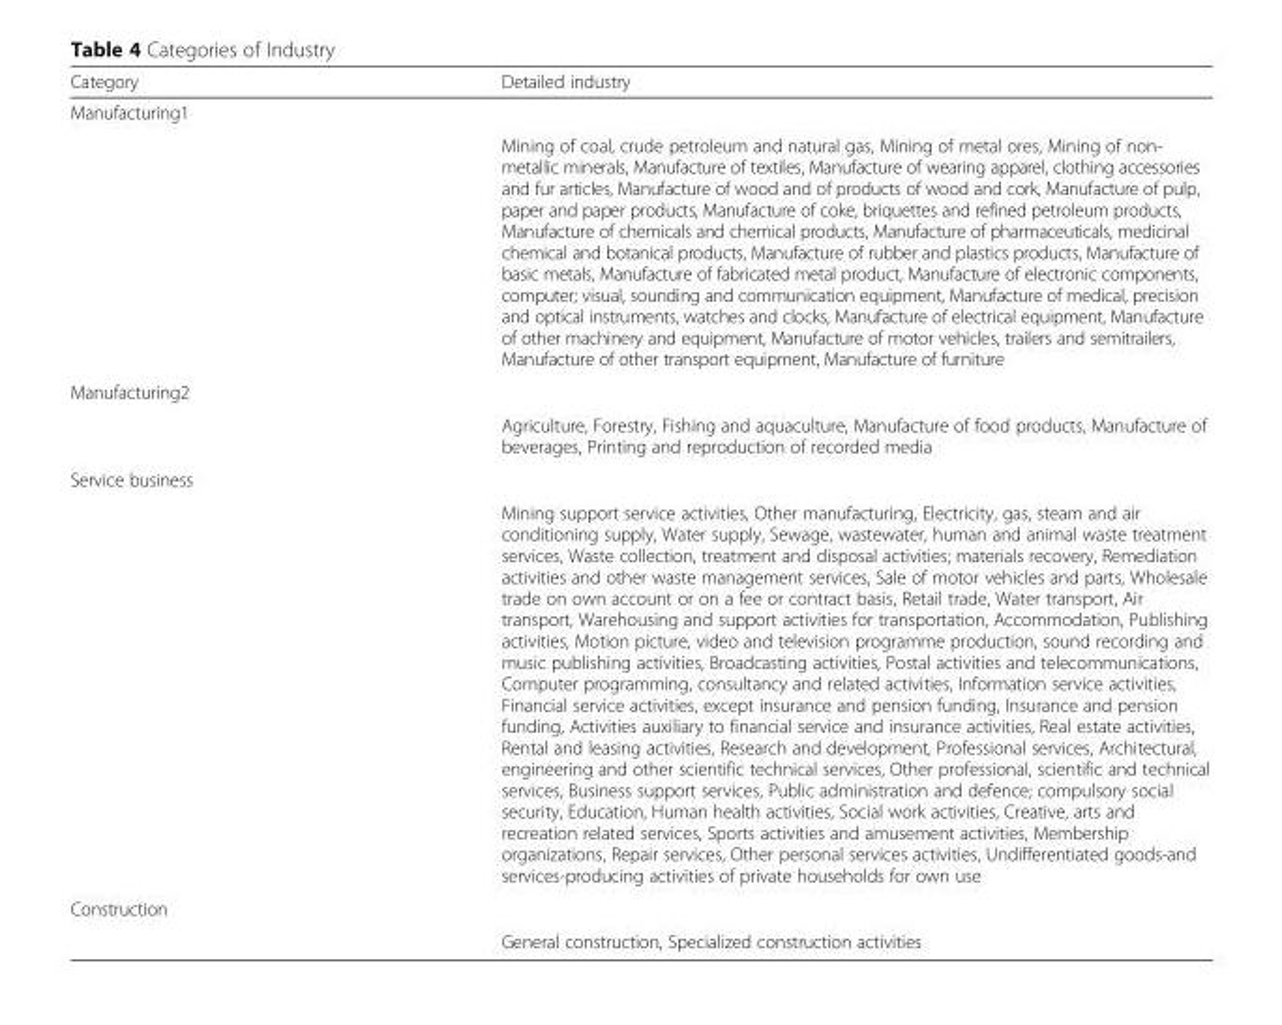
<table><thead><tr><td>Category</td><td>Detailed industry</td></tr></thead><tbody><tr><td colspan="2">Manufacturing1</td></tr><tr><td></td><td>Mining of coal, crude petroleum and natural gas, Mining of metal ores, Mining of non- metallic minerals, Manufacture of textiles, Manufacture of wearing apparel, clothing accessories and fur articles, Manufacture of wood and of products of wood and cork, Manufacture of pulp, paper and paper products, Manufacture of coke, briquettes and refined petroleum products, Manufacture of chemicals and chemical products, Manufacture of pharmaceuticals, medicinal chemical and botanical products, Manufacture of rubber and plastics products, Manufacture of basic metals, Manufacture of fabricated metal product, Manufacture of electronic components, computer; visual, sounding and communication equipment, Manufacture of medical, precision and optical instruments, watches and clocks, Manufacture of electrical equipment, Manufacture of other machinery and equipment, Manufacture of motor vehicles, trailers and semitrailers, Manufacture of other transport equipment, Manufacture of furniture</td></tr><tr><td colspan="2">Manufacturing2</td></tr><tr><td></td><td>Agriculture, Forestry, Fishing and aquaculture, Manufacture of food products, Manufacture of beverages, Printing and reproduction of recorded media</td></tr><tr><td colspan="2">Service business</td></tr><tr><td></td><td>Mining support service activities, Other manufacturing, Electricity, gas, steam and air conditioning supply, Water supply, Sewage, wastewater, human and animal waste treatment services, Waste collection, treatment and disposal activities; materials recovery, Remediation activities and other waste management services, Sale of motor vehicles and parts, Wholesale trade on own account or on a fee or contract basis, Retail trade, Water transport, Air transport, Warehousing and support activities for transportation, Accommodation, Publishing activities, Motion picture, video and television programme production, sound recording and music publishing activities, Broadcasting activities, Postal activities and telecommunications, Computer programming, consultancy and related activities, Information service activities, Financial service activities, except insurance and pension funding, Insurance and pension funding, Activities auxiliary to financial service and insurance activities, Real estate activities, Rental and leasing activities, Research and development, Professional services, Architectural, engineering and other scientific technical services, Other professional, scientific and technical services, Business support services, Public administration and defence; compulsory social security, Education, Human health activities, Social work activities, Creative, arts and recreation related services, Sports activities and amusement activities, Membership organizations, Repair services, Other personal services activities, Undifferentiated goods-and services-producing activities of private households for own use</td></tr><tr><td colspan="2">Construction</td></tr><tr><td></td><td>General construction, Specialized construction activities</td></tr></tbody></table>